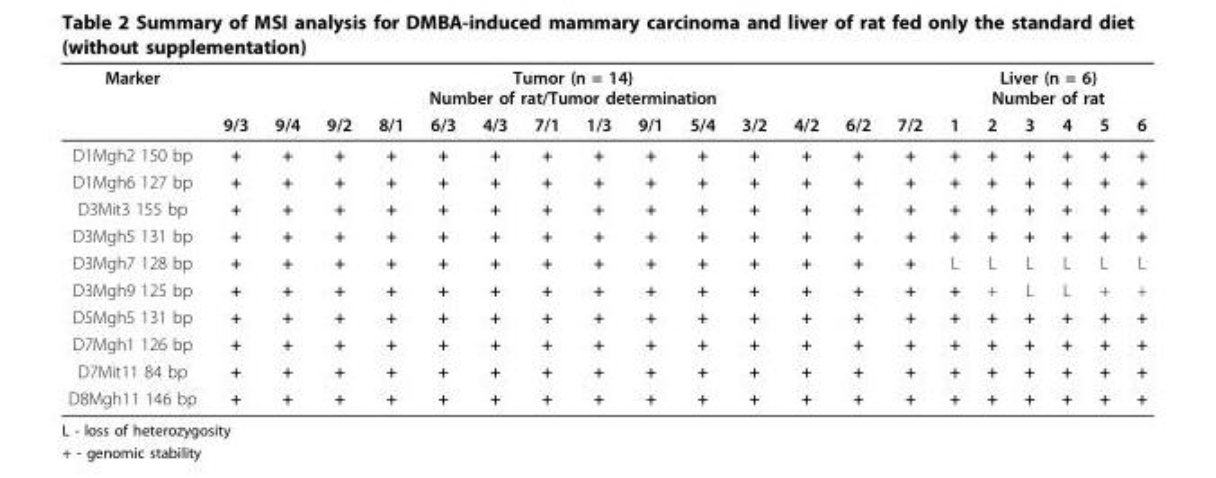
<table><thead><tr><td rowspan="2">Marker</td><td colspan="14">Tumor (n = 14) Number of rat/Tumor determination</td><td colspan="6">Liver (n = 6) Number of rat</td></tr><tr><td>9/3</td><td>9/4</td><td>9/2</td><td>8/1</td><td>6/3</td><td>4/3</td><td>7/1</td><td>1/3</td><td>9/1</td><td>5/4</td><td>3/2</td><td>4/2</td><td>6/2</td><td>7/2</td><td>1</td><td>2</td><td>3</td><td>4</td><td>5</td><td>6</td></tr></thead><tbody><tr><td>D1Mgh2 150 bp</td><td>+</td><td>+</td><td>+</td><td>+</td><td>+</td><td>+</td><td>+</td><td>+</td><td>+</td><td>+</td><td>+</td><td>+</td><td>+</td><td>+</td><td>+</td><td>+</td><td>+</td><td>+</td><td>+</td><td>+</td></tr><tr><td>D1Mgh6 127 bp</td><td>+</td><td>+</td><td>+</td><td>+</td><td>+</td><td>+</td><td>+</td><td>+</td><td>+</td><td>+</td><td>+</td><td>+</td><td>+</td><td>+</td><td>+</td><td>+</td><td>+</td><td>+</td><td>+</td><td>+</td></tr><tr><td>D3Mit3 155 bp</td><td>+</td><td>+</td><td>+</td><td>+</td><td>+</td><td>+</td><td>+</td><td>+</td><td>+</td><td>+</td><td>+</td><td>+</td><td>+</td><td>+</td><td>+</td><td>+</td><td>+</td><td>+</td><td>+</td><td>+</td></tr><tr><td>D3Mgh5 131 bp</td><td>+</td><td>+</td><td>+</td><td>+</td><td>+</td><td>+</td><td>+</td><td>+</td><td>+</td><td>+</td><td>+</td><td>+</td><td>+</td><td>+</td><td>+</td><td>+</td><td>+</td><td>+</td><td>+</td><td>+</td></tr><tr><td>D3Mgh7 128 bp</td><td>+</td><td>+</td><td>+</td><td>+</td><td>+</td><td>+</td><td>+</td><td>+</td><td>+</td><td>+</td><td>+</td><td>+</td><td>+</td><td>+</td><td>L</td><td>L</td><td>L</td><td>L</td><td>L</td><td>L</td></tr><tr><td>D3Mgh9 125 bp</td><td>+</td><td>+</td><td>+</td><td>+</td><td>+</td><td>+</td><td>+</td><td>+</td><td>+</td><td>+</td><td>+</td><td>+</td><td>+</td><td>+</td><td>+</td><td>+</td><td>L</td><td>L</td><td>+</td><td>+</td></tr><tr><td>D5Mgh5 131 bp</td><td>+</td><td>+</td><td>+</td><td>+</td><td>+</td><td>+</td><td>+</td><td>+</td><td>+</td><td>+</td><td>+</td><td>+</td><td>+</td><td>+</td><td>+</td><td>+</td><td>+</td><td>+</td><td>+</td><td>+</td></tr><tr><td>D7Mgh1 126 bp</td><td>+</td><td>+</td><td>+</td><td>+</td><td>+</td><td>+</td><td>+</td><td>+</td><td>+</td><td>+</td><td>+</td><td>+</td><td>+</td><td>+</td><td>+</td><td>+</td><td>+</td><td>+</td><td>+</td><td>+</td></tr><tr><td>D7Mit11 84 bp</td><td>+</td><td>+</td><td>+</td><td>+</td><td>+</td><td>+</td><td>+</td><td>+</td><td>+</td><td>+</td><td>+</td><td>+</td><td>+</td><td>+</td><td>+</td><td>+</td><td>+</td><td>+</td><td>+</td><td>+</td></tr><tr><td>D8Mgh11 146 bp</td><td>+</td><td>+</td><td>+</td><td>+</td><td>+</td><td>+</td><td>+</td><td>+</td><td>+</td><td>+</td><td>+</td><td>+</td><td>+</td><td>+</td><td>+</td><td>+</td><td>+</td><td>+</td><td>+</td><td>+</td></tr></tbody></table>